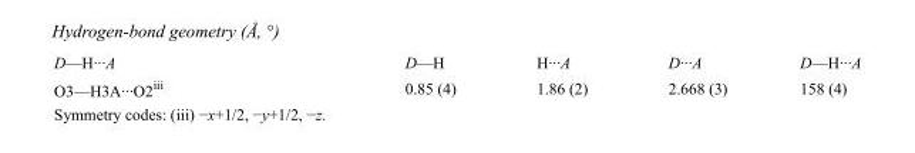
<table><tbody><tr><td>D—H···A</td><td>D—H</td><td>H···A</td><td>D···A</td><td>D—H···A</td></tr><tr><td>O3—H3A···O2<sup>iii</sup></td><td>0.85 (4)</td><td>1.86 (2)</td><td>2.668 (3)</td><td>158 (4)</td></tr></tbody></table>